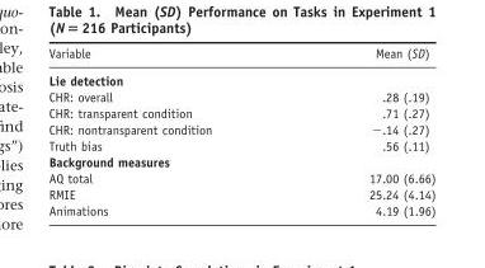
<table><thead><tr><td>Variable</td><td>Mean (SD)</td></tr></thead><tbody><tr><td colspan="2">Lie detection</td></tr><tr><td>CHR: overall</td><td>.28 (.19)</td></tr><tr><td>CHR: transparent condition</td><td>.71 (.27)</td></tr><tr><td>CHR: nontransparent condition</td><td>−.14 (.27)</td></tr><tr><td>Truth bias</td><td>.56 (.11)</td></tr><tr><td colspan="2">Background measures</td></tr><tr><td>AQ total</td><td>17.00 (6.66)</td></tr><tr><td>RMIE</td><td>25.24 (4.14)</td></tr><tr><td>Animations</td><td>4.19 (1.96)</td></tr></tbody></table>